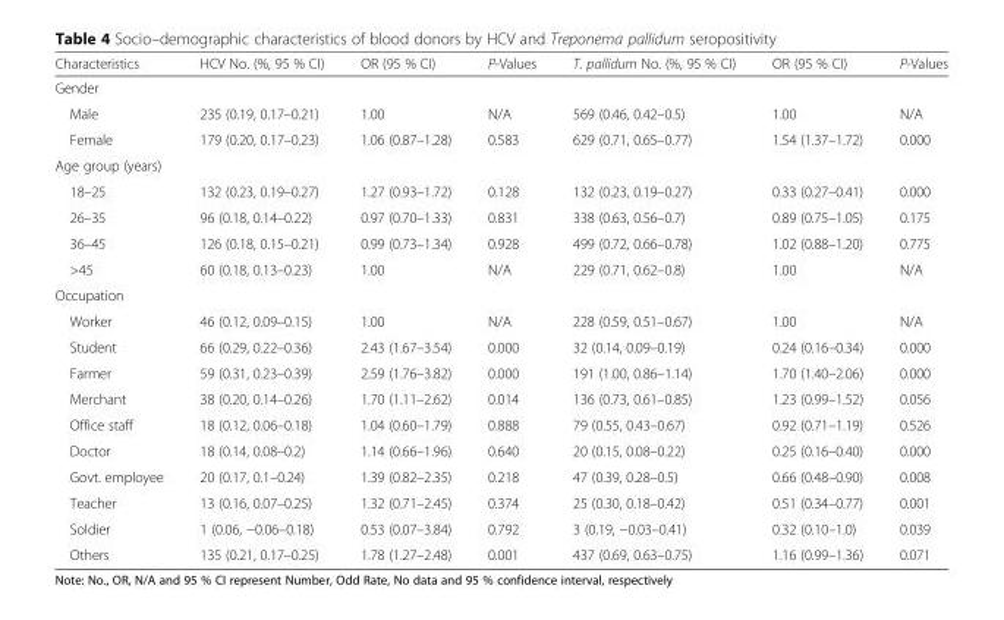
<table><thead><tr><td>Characteristics</td><td>HCV No. (%, 95 % CI)</td><td>OR (95 % CI)</td><td>P-Values</td><td>T. pallidum No. (%, 95 % CI)</td><td>OR (95 % CI)</td><td>P-Values</td></tr></thead><tbody><tr><td colspan="7">Gender</td></tr><tr><td>Male</td><td>235 (0.19, 0.17–0.21)</td><td>1.00</td><td>N/A</td><td>569 (0.46, 0.42–0.5)</td><td>1.00</td><td>N/A</td></tr><tr><td>Female</td><td>179 (0.20, 0.17–0.23)</td><td>1.06 (0.87–1.28)</td><td>0.583</td><td>629 (0.71, 0.65–0.77)</td><td>1.54 (1.37–1.72)</td><td>0.000</td></tr><tr><td colspan="7">Age group (years)</td></tr><tr><td>18–25</td><td>132 (0.23, 0.19–0.27)</td><td>1.27 (0.93–1.72)</td><td>0.128</td><td>132 (0.23, 0.19–0.27)</td><td>0.33 (0.27–0.41)</td><td>0.000</td></tr><tr><td>26–35</td><td>96 (0.18, 0.14–0.22)</td><td>0.97 (0.70–1.33)</td><td>0.831</td><td>338 (0.63, 0.56–0.7)</td><td>0.89 (0.75–1.05)</td><td>0.175</td></tr><tr><td>36–45</td><td>126 (0.18, 0.15–0.21)</td><td>0.99 (0.73–1.34)</td><td>0.928</td><td>499 (0.72, 0.66–0.78)</td><td>1.02 (0.88–1.20)</td><td>0.775</td></tr><tr><td>&gt;45</td><td>60 (0.18, 0.13–0.23)</td><td>1.00</td><td>N/A</td><td>229 (0.71, 0.62–0.8)</td><td>1.00</td><td>N/A</td></tr><tr><td colspan="7">Occupation</td></tr><tr><td>Worker</td><td>46 (0.12, 0.09–0.15)</td><td>1.00</td><td>N/A</td><td>228 (0.59, 0.51–0.67)</td><td>1.00</td><td>N/A</td></tr><tr><td>Student</td><td>66 (0.29, 0.22–0.36)</td><td>2.43 (1.67–3.54)</td><td>0.000</td><td>32 (0.14, 0.09–0.19)</td><td>0.24 (0.16–0.34)</td><td>0.000</td></tr><tr><td>Farmer</td><td>59 (0.31, 0.23–0.39)</td><td>2.59 (1.76–3.82)</td><td>0.000</td><td>191 (1.00, 0.86–1.14)</td><td>1.70 (1.40–2.06)</td><td>0.000</td></tr><tr><td>Merchant</td><td>38 (0.20, 0.14–0.26)</td><td>1.70 (1.11–2.62)</td><td>0.014</td><td>136 (0.73, 0.61–0.85)</td><td>1.23 (0.99–1.52)</td><td>0.056</td></tr><tr><td>Office staff</td><td>18 (0.12, 0.06–0.18)</td><td>1.04 (0.60–1.79)</td><td>0.888</td><td>79 (0.55, 0.43–0.67)</td><td>0.92 (0.71–1.19)</td><td>0.526</td></tr><tr><td>Doctor</td><td>18 (0.14, 0.08–0.2)</td><td>1.14 (0.66–1.96)</td><td>0.640</td><td>20 (0.15, 0.08–0.22)</td><td>0.25 (0.16–0.40)</td><td>0.000</td></tr><tr><td>Govt. employee</td><td>20 (0.17, 0.1–0.24)</td><td>1.39 (0.82–2.35)</td><td>0.218</td><td>47 (0.39, 0.28–0.5)</td><td>0.66 (0.48–0.90)</td><td>0.008</td></tr><tr><td>Teacher</td><td>13 (0.16, 0.07–0.25)</td><td>1.32 (0.71–2.45)</td><td>0.374</td><td>25 (0.30, 0.18–0.42)</td><td>0.51 (0.34–0.77)</td><td>0.001</td></tr><tr><td>Soldier</td><td>1 (0.06, −0.06–0.18)</td><td>0.53 (0.07–3.84)</td><td>0.792</td><td>3 (0.19, −0.03–0.41)</td><td>0.32 (0.10–1.0)</td><td>0.039</td></tr><tr><td>Others</td><td>135 (0.21, 0.17–0.25)</td><td>1.78 (1.27–2.48)</td><td>0.001</td><td>437 (0.69, 0.63–0.75)</td><td>1.16 (0.99–1.36)</td><td>0.071</td></tr></tbody></table>